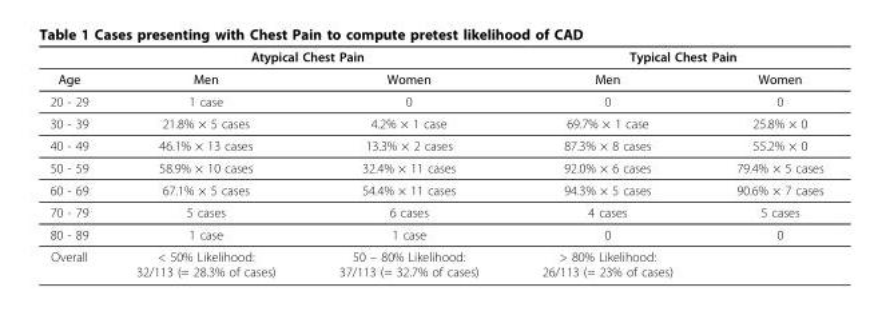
<table><thead><tr><td rowspan="2">Age</td><td colspan="2">Atypical Chest Pain</td><td colspan="2">Typical Chest Pain</td></tr><tr><td>Men</td><td>Women</td><td>Men</td><td>Women</td></tr></thead><tbody><tr><td>20 - 29</td><td>1 case</td><td>0</td><td>0</td><td>0</td></tr><tr><td>30 - 39</td><td>21.8% × 5 cases</td><td>4.2% × 1 case</td><td>69.7% × 1 case</td><td>25.8% × 0</td></tr><tr><td>40 - 49</td><td>46.1% × 13 cases</td><td>13.3% × 2 cases</td><td>87.3% × 8 cases</td><td>55.2% × 0</td></tr><tr><td>50 - 59</td><td>58.9% × 10 cases</td><td>32.4% × 11 cases</td><td>92.0% × 6 cases</td><td>79.4% × 5 cases</td></tr><tr><td>60 - 69</td><td>67.1% × 5 cases</td><td>54.4% × 11 cases</td><td>94.3% × 5 cases</td><td>90.6% × 7 cases</td></tr><tr><td>70 - 79</td><td>5 cases</td><td>6 cases</td><td>4 cases</td><td>5 cases</td></tr><tr><td>80 - 89</td><td>1 case</td><td>1 case</td><td>0</td><td>0</td></tr><tr><td>Overall</td><td>&lt; 50% Likelihood: 32/113 (= 28.3% of cases)</td><td>50 – 80% Likelihood: 37/113 (= 32.7% of cases)</td><td>&gt; 80% Likelihood: 26/113 (= 23% of cases)</td><td></td></tr></tbody></table>